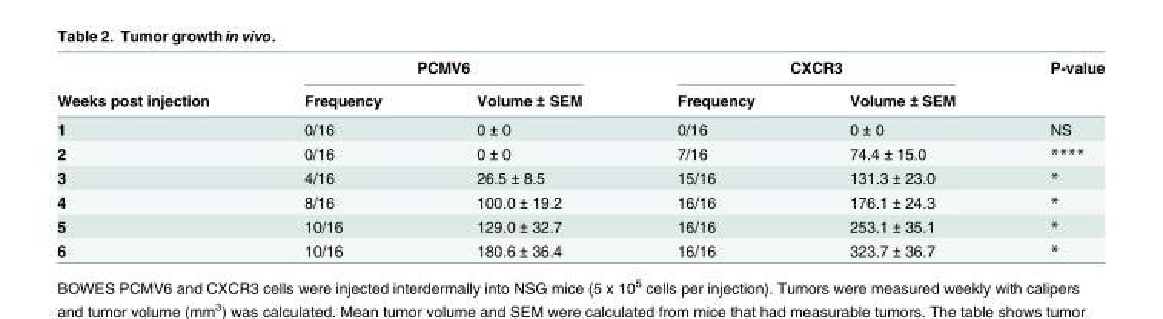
<table><thead><tr><td rowspan="2">Weeks post injection</td><td colspan="2">PCMV6</td><td colspan="2">CXCR3</td><td rowspan="2">P-value</td></tr><tr><td>Frequency</td><td>Volume ± SEM</td><td>Frequency</td><td>Volume ± SEM</td></tr></thead><tbody><tr><td>1</td><td>0/16</td><td>0 ± 0</td><td>0/16</td><td>0 ± 0</td><td>NS</td></tr><tr><td>2</td><td>0/16</td><td>0 ± 0</td><td>7/16</td><td>74.4 ± 15.0</td><td>****</td></tr><tr><td>3</td><td>4/16</td><td>26.5 ± 8.5</td><td>15/16</td><td>131.3 ± 23.0</td><td>*</td></tr><tr><td>4</td><td>8/16</td><td>100.0 ± 19.2</td><td>16/16</td><td>176.1 ± 24.3</td><td>*</td></tr><tr><td>5</td><td>10/16</td><td>129.0 ± 32.7</td><td>16/16</td><td>253.1 ± 35.1</td><td>*</td></tr><tr><td>6</td><td>10/16</td><td>180.6 ± 36.4</td><td>16/16</td><td>323.7 ± 36.7</td><td>*</td></tr></tbody></table>